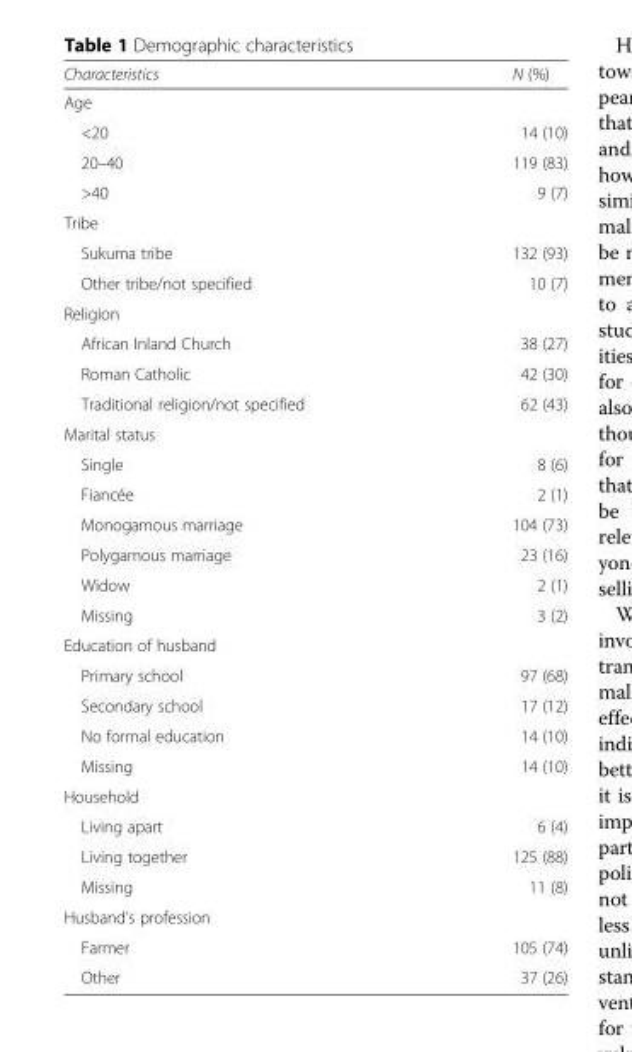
<table><thead><tr><td>Characteristics</td><td>N (%)</td></tr></thead><tbody><tr><td colspan="2">Age</td></tr><tr><td>&lt;20</td><td>14 (10)</td></tr><tr><td>20–40</td><td>119 (83)</td></tr><tr><td>&gt;40</td><td>9 (7)</td></tr><tr><td colspan="2">Tribe</td></tr><tr><td>Sukuma tribe</td><td>132 (93)</td></tr><tr><td>Other tribe/not specified</td><td>10 (7)</td></tr><tr><td colspan="2">Religion</td></tr><tr><td>African Inland Church</td><td>38 (27)</td></tr><tr><td>Roman Catholic</td><td>42 (30)</td></tr><tr><td>Traditional religion/not specified</td><td>62 (43)</td></tr><tr><td colspan="2">Marital status</td></tr><tr><td>Single</td><td>8 (6)</td></tr><tr><td>Fiancée</td><td>2 (1)</td></tr><tr><td>Monogamous marriage</td><td>104 (73)</td></tr><tr><td>Polygamous marriage</td><td>23 (16)</td></tr><tr><td>Widow</td><td>2 (1)</td></tr><tr><td>Missing</td><td>3 (2)</td></tr><tr><td colspan="2">Education of husband</td></tr><tr><td>Primary school</td><td>97 (68)</td></tr><tr><td>Secondary school</td><td>17 (12)</td></tr><tr><td>No formal education</td><td>14 (10)</td></tr><tr><td>Missing</td><td>14 (10)</td></tr><tr><td colspan="2">Household</td></tr><tr><td>Living apart</td><td>6 (4)</td></tr><tr><td>Living together</td><td>125 (88)</td></tr><tr><td>Missing</td><td>11 (8)</td></tr><tr><td colspan="2">Husband’s profession</td></tr><tr><td>Farmer</td><td>105 (74)</td></tr><tr><td>Other</td><td>37 (26)</td></tr></tbody></table>